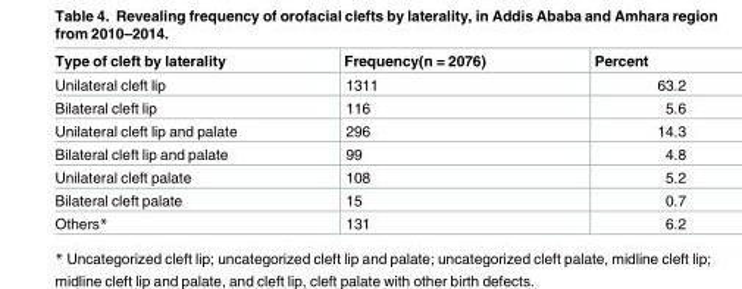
<table><thead><tr><td>Type of cleft by laterality</td><td>Frequency(n = 2076)</td><td>Percent</td></tr></thead><tbody><tr><td>Unilateral cleft lip</td><td>1311</td><td>63.2</td></tr><tr><td>Bilateral cleft lip</td><td>116</td><td>5.6</td></tr><tr><td>Unilateral cleft lip and palate</td><td>296</td><td>14.3</td></tr><tr><td>Bilateral cleft lip and palate</td><td>99</td><td>4.8</td></tr><tr><td>Unilateral cleft palate</td><td>108</td><td>5.2</td></tr><tr><td>Bilateral cleft palate</td><td>15</td><td>0.7</td></tr><tr><td>Others*</td><td>131</td><td>6.2</td></tr></tbody></table>